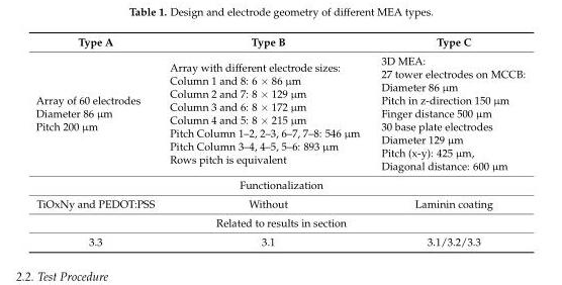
<table><thead><tr><td>Type A</td><td>Type B</td><td>Type C</td></tr></thead><tbody><tr><td>Array of 60 electrodes Diameter 86 µm Pitch 200 µm</td><td>Array with different electrode sizes: Column 1 and 8: 6 × 86 µm Column 2 and 7: 8 × 129 µm Column 3 and 6: 8 × 172 µm Column 4 and 5: 8 × 215 µm Pitch Column 1–2, 2–3, 6–7, 7–8: 546 µm Pitch Column 3–4, 4–5, 5–6: 893 µm Rows pitch is equivalent</td><td>3D MEA: 27 tower electrodes on MCCB: Diameter 86 µm Pitch in z-direction 150 µm Finger distance 500 µm 30 base plate electrodes Diameter 129 µm Pitch (x-y): 425 µm, Diagonal distance: 600 µm</td></tr><tr><td colspan="3">Functionalization</td></tr><tr><td>TiOxNy and PEDOT:PSS</td><td>Without</td><td>Laminin coating</td></tr><tr><td colspan="3">Related to results in section</td></tr><tr><td>3.3</td><td>3.1</td><td>3.1/3.2/3.3</td></tr></tbody></table>